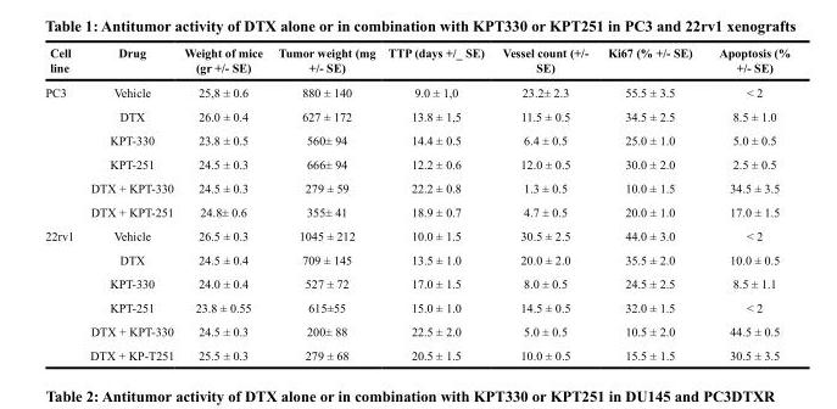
<table><thead><tr><td>Cell line</td><td>Drug</td><td>Weight of mice (gr +/- SE)</td><td>Tumor weight (mg +/- SE)</td><td>TTP (days +/_ SE)</td><td>Vessel count (+/- SE)</td><td>Ki67 (% +/- SE)</td><td>Apoptosis (% +/- SE)</td></tr></thead><tbody><tr><td rowspan="6">PC3</td><td>Vehicle</td><td>25,8 ± 0.6</td><td>880 ± 140</td><td>9.0 ± 1,0</td><td>23.2± 2.3</td><td>55.5 ± 3.5</td><td>&lt; 2</td></tr><tr><td>DTX</td><td>26.0 ± 0.4</td><td>627 ± 172</td><td>13.8 ± 1,5</td><td>11.5 ± 0.5</td><td>34.5 ± 2.5</td><td>8.5 ± 1.0</td></tr><tr><td>KPT-330</td><td>23.8 ± 0.5</td><td>560± 94</td><td>14.4 ± 0.5</td><td>6.4 ± 0.5</td><td>25.0 ± 1.0</td><td>5.0 ± 0.5</td></tr><tr><td>KPT-251</td><td>24.5 ± 0.3</td><td>666± 94</td><td>12.2 ± 0.6</td><td>12.0 ± 0.5</td><td>30.0 ± 2.0</td><td>2.5 ± 0.5</td></tr><tr><td>DTX + KPT-330</td><td>24.5 ± 0.3</td><td>279 ± 59</td><td>22.2 ± 0.8</td><td>1.3 ± 0.5</td><td>10.0 ± 1.5</td><td>34.5 ± 3.5</td></tr><tr><td>DTX + KPT-251</td><td>24.8± 0.6</td><td>355± 41</td><td>18.9 ± 0.7</td><td>4.7 ± 0.5</td><td>20.0 ± 1.0</td><td>17.0 ± 1.5</td></tr><tr><td rowspan="6">22rv1</td><td>Vehicle</td><td>26.5 ± 0.3</td><td>1045 ± 212</td><td>10.0 ± 1.5</td><td>30.5 ± 2.5</td><td>44.0 ± 3.0</td><td>&lt; 2</td></tr><tr><td>DTX</td><td>24.5 ± 0.4</td><td>709 ± 145</td><td>13.5 ± 1.0</td><td>20.0 ± 2.0</td><td>35.5 ± 2.0</td><td>10.0 ± 0.5</td></tr><tr><td>KPT-330</td><td>24.0 ± 0.4</td><td>527 ± 72</td><td>17.0 ± 1.5</td><td>8.0 ± 0.5</td><td>24.5 ± 2.5</td><td>8.5 ± 1.1</td></tr><tr><td>KPT-251</td><td>23.8 ± 0.55</td><td>615±55</td><td>15.0 ± 1.0</td><td>14.5 ± 0.5</td><td>32.0 ± 1.5</td><td>&lt; 2</td></tr><tr><td>DTX + KPT-330</td><td>24.5 ± 0.3</td><td>200± 88</td><td>22.5 ± 2.0</td><td>5.0 ± 0.5</td><td>10.5 ± 2.0</td><td>44.5 ± 0.5</td></tr><tr><td>DTX + KP-T251</td><td>25.5 ± 0.3</td><td>279 ± 68</td><td>20.5 ± 1.5</td><td>10.0 ± 0.5</td><td>15.5 ± 1.5</td><td>30.5 ± 3.5</td></tr></tbody></table>